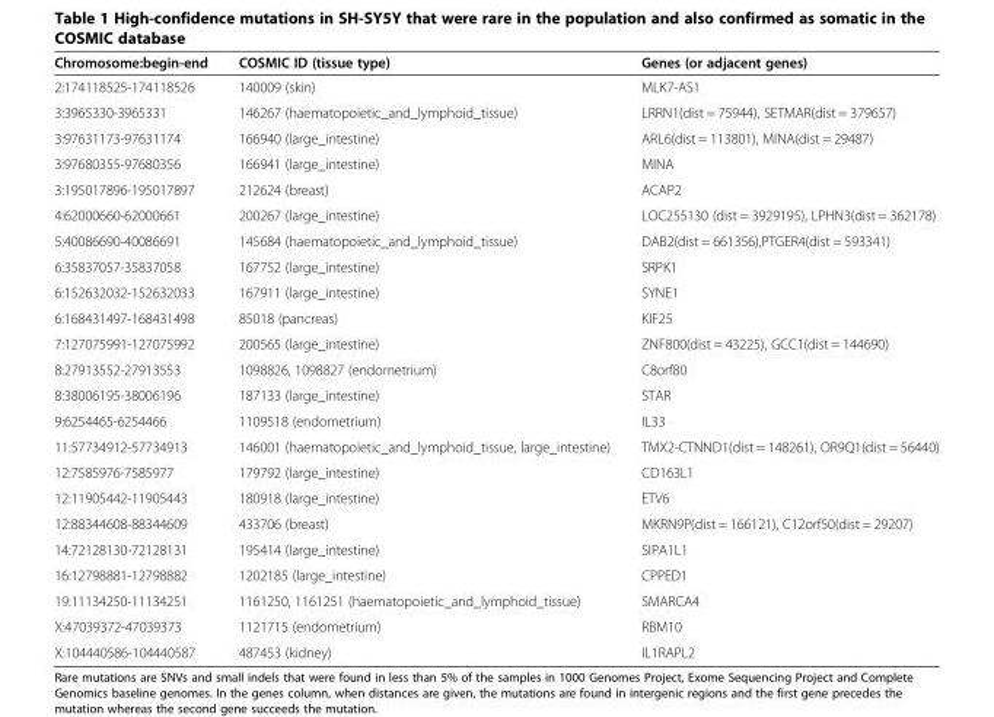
<table><thead><tr><td>Chromosome:begin-end</td><td>COSMIC ID (tissue type)</td><td>Genes (or adjacent genes)</td></tr></thead><tbody><tr><td>2:174118525-174118526</td><td>140009 (skin)</td><td>MLK7-AS1</td></tr><tr><td>3:3965330-3965331</td><td>146267 (haematopoietic_and_lymphoid_tissue)</td><td>LRRN1(dist = 75944), SETMAR(dist = 379657)</td></tr><tr><td>3:97631173-97631174</td><td>166940 (large_intestine)</td><td>ARL6(dist = 113801), MINA(dist = 29487)</td></tr><tr><td>3:97680355-97680356</td><td>166941 (large_intestine)</td><td>MINA</td></tr><tr><td>3:195017896-195017897</td><td>212624 (breast)</td><td>ACAP2</td></tr><tr><td>4:62000660-62000661</td><td>200267 (large_intestine)</td><td>LOC255130 (dist = 3929195), LPHN3(dist = 362178)</td></tr><tr><td>5:40086690-40086691</td><td>145684 (haematopoietic_and_lymphoid_tissue)</td><td>DAB2(dist = 661356),PTGER4(dist = 593341)</td></tr><tr><td>6:35837057-35837058</td><td>167752 (large_intestine)</td><td>SRPK1</td></tr><tr><td>6:152632032-152632033</td><td>167911 (large_intestine)</td><td>SYNE1</td></tr><tr><td>6:168431497-168431498</td><td>85018 (pancreas)</td><td>KIF25</td></tr><tr><td>7:127075991-127075992</td><td>200565 (large_intestine)</td><td>ZNF800(dist = 43225), GCC1(dist = 144690)</td></tr><tr><td>8:27913552-27913553</td><td>1098826, 1098827 (endometrium)</td><td>C8orf80</td></tr><tr><td>8:38006195-38006196</td><td>187133 (large_intestine)</td><td>STAR</td></tr><tr><td>9:6254465-6254466</td><td>1109518 (endometrium)</td><td>IL33</td></tr><tr><td>11:57734912-57734913</td><td>146001 (haematopoietic_and_lymphoid_tissue, large_intestine)</td><td>TMX2-CTNND1(dist = 148261), OR9Q1(dist = 56440)</td></tr><tr><td>12:7585976-7585977</td><td>179792 (large_intestine)</td><td>CD163L1</td></tr><tr><td>12:11905442-11905443</td><td>180918 (large_intestine)</td><td>ETV6</td></tr><tr><td>12:88344608-88344609</td><td>433706 (breast)</td><td>MKRN9P(dist = 166121), C12orf50(dist = 29207)</td></tr><tr><td>14:72128130-72128131</td><td>195414 (large_intestine)</td><td>SIPA1L1</td></tr><tr><td>16:12798881-12798882</td><td>1202185 (large_intestine)</td><td>CPPED1</td></tr><tr><td>19:11134250-11134251</td><td>1161250, 1161251 (haematopoietic_and_lymphoid_tissue)</td><td>SMARCA4</td></tr><tr><td>X:47039372-47039373</td><td>1121715 (endometrium)</td><td>RBM10</td></tr><tr><td>X:104440586-104440587</td><td>487453 (kidney)</td><td>IL1RAPL2</td></tr></tbody></table>